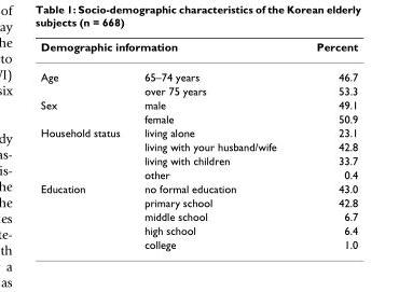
<table><thead><tr><td colspan="2">Demographic information</td><td rowspan="2">Percent 46.7</td></tr><tr><td>Age</td><td>65–74 years</td></tr></thead><tbody><tr><td></td><td>over 75 years</td><td>53.3</td></tr><tr><td rowspan="2">Sex</td><td>male</td><td>49.1</td></tr><tr><td>female</td><td>50.9</td></tr><tr><td rowspan="4">Household status</td><td>living alone</td><td>23.1</td></tr><tr><td>living with your husband/wife</td><td>42.8</td></tr><tr><td>living with children</td><td>33.7</td></tr><tr><td>other</td><td>0.4</td></tr><tr><td rowspan="5">Education</td><td>no formal education</td><td>43.0</td></tr><tr><td>primary school</td><td>42.8</td></tr><tr><td>middle school</td><td>6.7</td></tr><tr><td>high school</td><td>6.4</td></tr><tr><td>college</td><td>1.0</td></tr></tbody></table>